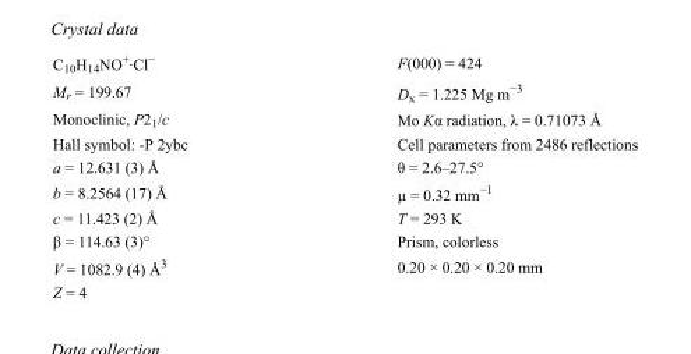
<table><tbody><tr><td>C<sub>10</sub>H<sub>14</sub>NO<sup>+</sup>·Cl<sup>−</sup></td><td>F(000) = 424</td></tr><tr><td>M<sub>r</sub> = 199.67</td><td>D<sub>x</sub> = 1.225 Mg m<sup>−3</sup></td></tr><tr><td>Monoclinic, P2<sub>1</sub>/c</td><td>Mo Kα radiation, λ = 0.71073 Å</td></tr><tr><td>Hall symbol: -P 2ybc</td><td>Cell parameters from 2486 reflections</td></tr><tr><td>a = 12.631 (3) Å</td><td>θ = 2.6–27.5°</td></tr><tr><td>b = 8.2564 (17) Å</td><td>µ = 0.32 mm<sup>−1</sup></td></tr><tr><td>c = 11.423 (2) Å</td><td>T = 293 K</td></tr><tr><td>β = 114.63 (3)°</td><td>Prism, colorless</td></tr><tr><td>V = 1082.9 (4) Å<sup>3</sup></td><td>0.20 × 0.20 × 0.20 mm</td></tr><tr><td>Z = 4</td><td></td></tr></tbody></table>